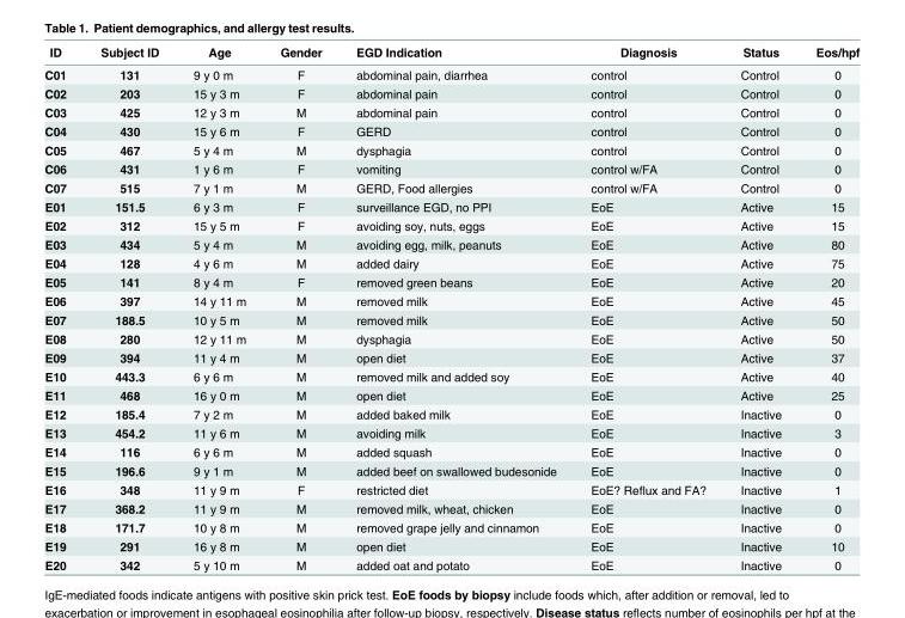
<table><thead><tr><td>ID</td><td>Subject ID</td><td>Age</td><td>Gender</td><td>EGD Indication</td><td>Diagnosis</td><td>Status</td><td>Eos/hpf</td></tr></thead><tbody><tr><td>C01</td><td>131</td><td>9 y 0 m</td><td>F</td><td>abdominal pain, diarrhea</td><td>control</td><td>Control</td><td>0</td></tr><tr><td>C02</td><td>203</td><td>15 y 3 m</td><td>F</td><td>abdominal pain</td><td>control</td><td>Control</td><td>0</td></tr><tr><td>C03</td><td>425</td><td>12 y 3 m</td><td>M</td><td>abdominal pain</td><td>control</td><td>Control</td><td>0</td></tr><tr><td>C04</td><td>430</td><td>15 y 6 m</td><td>F</td><td>GERD</td><td>control</td><td>Control</td><td>0</td></tr><tr><td>C05</td><td>467</td><td>5 y 4 m</td><td>M</td><td>dysphagia</td><td>control</td><td>Control</td><td>0</td></tr><tr><td>C06</td><td>431</td><td>1 y 6 m</td><td>F</td><td>vomiting</td><td>control w/FA</td><td>Control</td><td>0</td></tr><tr><td>C07</td><td>515</td><td>7 y 1 m</td><td>M</td><td>GERD, Food allergies</td><td>control w/FA</td><td>Control</td><td>0</td></tr><tr><td>E01</td><td>151.5</td><td>6 y 3 m</td><td>F</td><td>surveillance EGD, no PPI</td><td>EoE</td><td>Active</td><td>15</td></tr><tr><td>E02</td><td>312</td><td>15 y 5 m</td><td>F</td><td>avoiding soy, nuts, eggs</td><td>EoE</td><td>Active</td><td>15</td></tr><tr><td>E03</td><td>434</td><td>5 y 4 m</td><td>M</td><td>avoiding egg, milk, peanuts</td><td>EoE</td><td>Active</td><td>80</td></tr><tr><td>E04</td><td>128</td><td>4 y 6 m</td><td>M</td><td>added dairy</td><td>EoE</td><td>Active</td><td>75</td></tr><tr><td>E05</td><td>141</td><td>8 y 4 m</td><td>F</td><td>removed green beans</td><td>EoE</td><td>Active</td><td>20</td></tr><tr><td>E06</td><td>397</td><td>14 y 11 m</td><td>M</td><td>removed milk</td><td>EoE</td><td>Active</td><td>45</td></tr><tr><td>E07</td><td>188.5</td><td>10 y 5 m</td><td>M</td><td>removed milk</td><td>EoE</td><td>Active</td><td>50</td></tr><tr><td>E08</td><td>280</td><td>12 y 11 m</td><td>M</td><td>dysphagia</td><td>EoE</td><td>Active</td><td>50</td></tr><tr><td>E09</td><td>394</td><td>11 y 4 m</td><td>M</td><td>open diet</td><td>EoE</td><td>Active</td><td>37</td></tr><tr><td>E10</td><td>443.3</td><td>6 y 6 m</td><td>M</td><td>removed milk and added soy</td><td>EoE</td><td>Active</td><td>40</td></tr><tr><td>E11</td><td>468</td><td>16 y 0 m</td><td>M</td><td>open diet</td><td>EoE</td><td>Active</td><td>25</td></tr><tr><td>E12</td><td>185.4</td><td>7 y 2 m</td><td>M</td><td>added baked milk</td><td>EoE</td><td>Inactive</td><td>0</td></tr><tr><td>E13</td><td>454.2</td><td>11 y 6 m</td><td>M</td><td>avoiding milk</td><td>EoE</td><td>Inactive</td><td>3</td></tr><tr><td>E14</td><td>116</td><td>6 y 6 m</td><td>M</td><td>added squash</td><td>EoE</td><td>Inactive</td><td>0</td></tr><tr><td>E15</td><td>196.6</td><td>9 y 1 m</td><td>M</td><td>added beef on swallowed budesonide</td><td>EoE</td><td>Inactive</td><td>0</td></tr><tr><td>E16</td><td>348</td><td>11 y 9 m</td><td>F</td><td>restricted diet</td><td>EoE? Reflux and FA?</td><td>Inactive</td><td>1</td></tr><tr><td>E17</td><td>368.2</td><td>11 y 9 m</td><td>M</td><td>removed milk, wheat, chicken</td><td>EoE</td><td>Inactive</td><td>0</td></tr><tr><td>E18</td><td>171.7</td><td>10 y 8 m</td><td>M</td><td>removed grape jelly and cinnamon</td><td>EoE</td><td>Inactive</td><td>0</td></tr><tr><td>E19</td><td>291</td><td>16 y 8 m</td><td>M</td><td>open diet</td><td>EoE</td><td>Inactive</td><td>10</td></tr><tr><td>E20</td><td>342</td><td>5 y 10 m</td><td>M</td><td>added oat and potato</td><td>EoE</td><td>Inactive</td><td>0</td></tr></tbody></table>